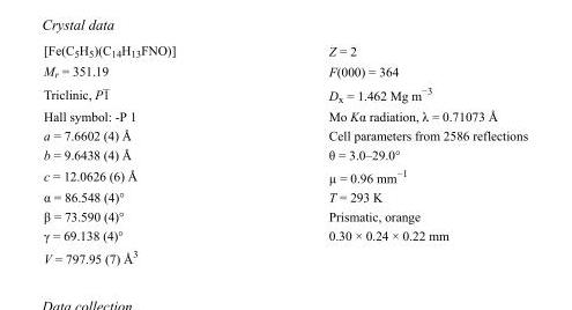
<table><tbody><tr><td>[Fe(C<sub>5</sub>H<sub>5</sub>)(C<sub>14</sub>H<sub>13</sub>FNO)]</td><td>Z = 2</td></tr><tr><td>M<sub>r</sub> = 351.19</td><td>F(000) = 364</td></tr><tr><td>Triclinic, P1</td><td>D<sub>x</sub> = 1.462 Mg m<sup>−3</sup></td></tr><tr><td>Hall symbol: -P 1</td><td>Mo Kα radiation, λ = 0.71073 Å</td></tr><tr><td>a = 7.6602 (4) Å</td><td>Cell parameters from 2586 reflections</td></tr><tr><td>b = 9.6438 (4) Å</td><td>θ = 3.0–29.0°</td></tr><tr><td>c = 12.0626 (6) Å</td><td>µ = 0.96 mm<sup>−1</sup></td></tr><tr><td>α = 86.548 (4)°</td><td>T = 293 K</td></tr><tr><td>β = 73.590 (4)°</td><td>Prismatic, orange</td></tr><tr><td>γ = 69.138 (4)°</td><td>0.30 × 0.24 × 0.22 mm</td></tr><tr><td>V = 797.95 (7) Å<sup>3</sup></td><td></td></tr></tbody></table>